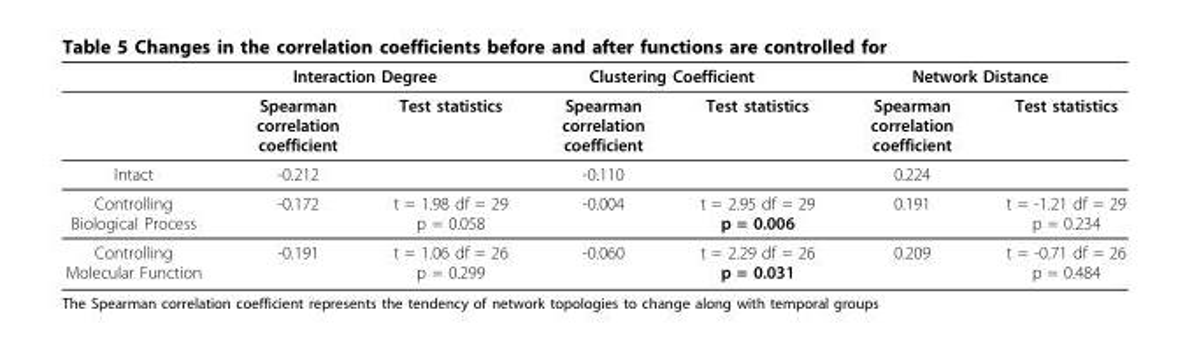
<table><thead><tr><td rowspan="2"></td><td colspan="2">Interaction Degree</td><td colspan="2">Clustering Coefficient</td><td colspan="2">Network Distance</td></tr><tr><td>Spearman correlation coefficient</td><td>Test statistics</td><td>Spearman correlation coefficient</td><td>Test statistics</td><td>Spearman correlation coefficient</td><td>Test statistics</td></tr></thead><tbody><tr><td>Intact</td><td>-0.212</td><td></td><td>-0.110</td><td></td><td>0.224</td><td></td></tr><tr><td>Controlling Biological Process</td><td>-0.172</td><td>t = 1.98 df = 29 p = 0.058</td><td>-0.004</td><td>t = 2.95 df = 29 p = 0.006</td><td>0.191</td><td>t = -1.21 df = 29 p = 0.234</td></tr><tr><td>Controlling Molecular Function</td><td>-0.191</td><td>t = 1.06 df = 26 p = 0.299</td><td>-0.060</td><td>t = 2.29 df = 26 p = 0.031</td><td>0.209</td><td>t = -0.71 df = 26 p = 0.484</td></tr></tbody></table>